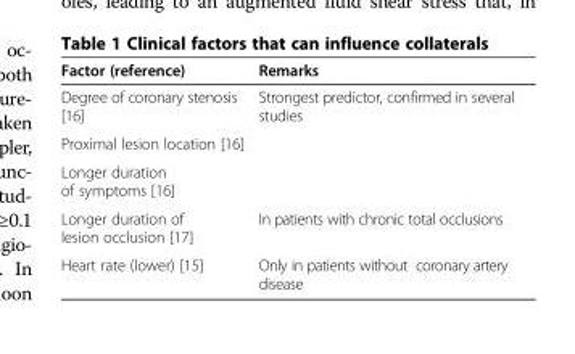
<table><thead><tr><td>Factor (reference)</td><td>Remarks</td></tr></thead><tbody><tr><td>Degree of coronary stenosis [16]</td><td>Strongest predictor, confirmed in several studies</td></tr><tr><td colspan="2">Proximal lesion location [16]</td></tr><tr><td colspan="2">Longer duration of symptoms [16]</td></tr><tr><td>Longer duration of lesion occlusion [17]</td><td>In patients with chronic total occlusions</td></tr><tr><td>Heart rate (lower) [15]</td><td>Only in patients without coronary artery disease</td></tr></tbody></table>